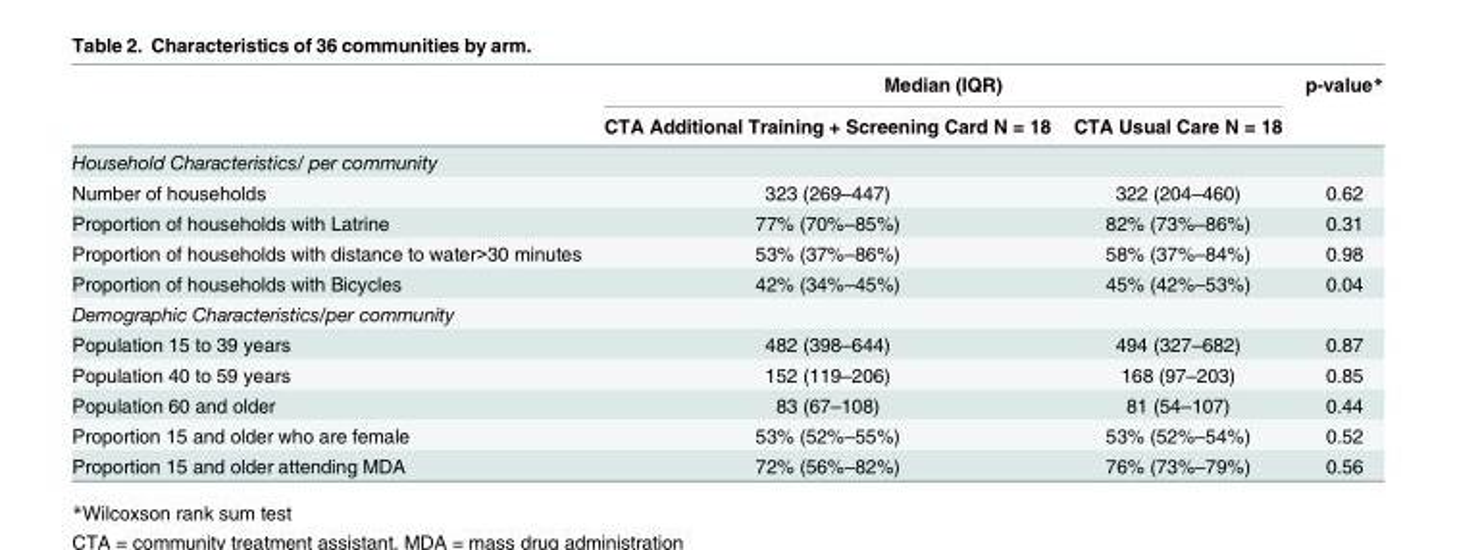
<table><thead><tr><td rowspan="2"></td><td colspan="2">Median (IQR)</td><td rowspan="2">p-value*</td></tr><tr><td>CTA Additional Training + Screening Card N = 18</td><td>CTA Usual Care N = 18</td></tr></thead><tbody><tr><td colspan="4">Household Characteristics/ per community</td></tr><tr><td>Number of households</td><td>323 (269–447)</td><td>322 (204–460)</td><td>0.62</td></tr><tr><td>Proportion of households with Latrine</td><td>77% (70%–85%)</td><td>82% (73%–86%)</td><td>0.31</td></tr><tr><td>Proportion of households with distance to water&gt;30 minutes</td><td>53% (37%–86%)</td><td>58% (37%–84%)</td><td>0.98</td></tr><tr><td>Proportion of households with Bicycles</td><td>42% (34%–45%)</td><td>45% (42%–53%)</td><td>0.04</td></tr><tr><td colspan="4">Demographic Characteristics/per community</td></tr><tr><td>Population 15 to 39 years</td><td>482 (398–644)</td><td>494 (327–682)</td><td>0.87</td></tr><tr><td>Population 40 to 59 years</td><td>152 (119–206)</td><td>168 (97–203)</td><td>0.85</td></tr><tr><td>Population 60 and older</td><td>83 (67–108)</td><td>81 (54–107)</td><td>0.44</td></tr><tr><td>Proportion 15 and older who are female</td><td>53% (52%–55%)</td><td>53% (52%–54%)</td><td>0.52</td></tr><tr><td>Proportion 15 and older attending MDA</td><td>72% (56%–82%)</td><td>76% (73%–79%)</td><td>0.56</td></tr></tbody></table>